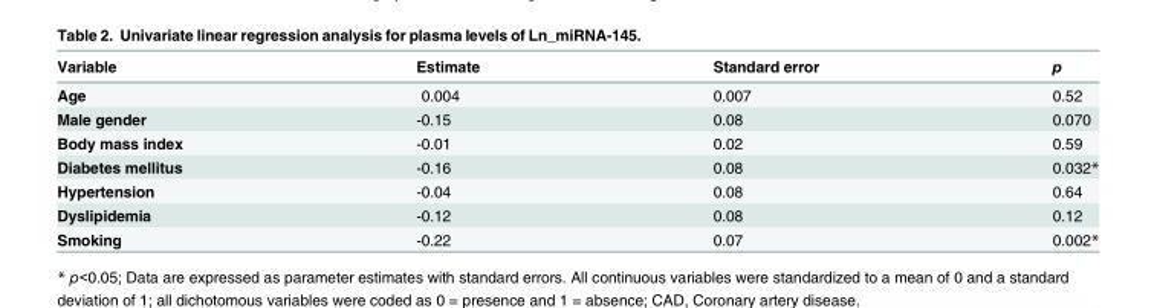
<table><thead><tr><td>Variable</td><td>Estimate</td><td>Standard error</td><td>p</td></tr></thead><tbody><tr><td>Age</td><td>0.004</td><td>0.007</td><td>0.52</td></tr><tr><td>Male gender</td><td>-0.15</td><td>0.08</td><td>0.070</td></tr><tr><td>Body mass index</td><td>-0.01</td><td>0.02</td><td>0.59</td></tr><tr><td>Diabetes mellitus</td><td>-0.16</td><td>0.08</td><td>0.032*</td></tr><tr><td>Hypertension</td><td>-0.04</td><td>0.08</td><td>0.64</td></tr><tr><td>Dyslipidemia</td><td>-0.12</td><td>0.08</td><td>0.12</td></tr><tr><td>Smoking</td><td>-0.22</td><td>0.07</td><td>0.002*</td></tr></tbody></table>